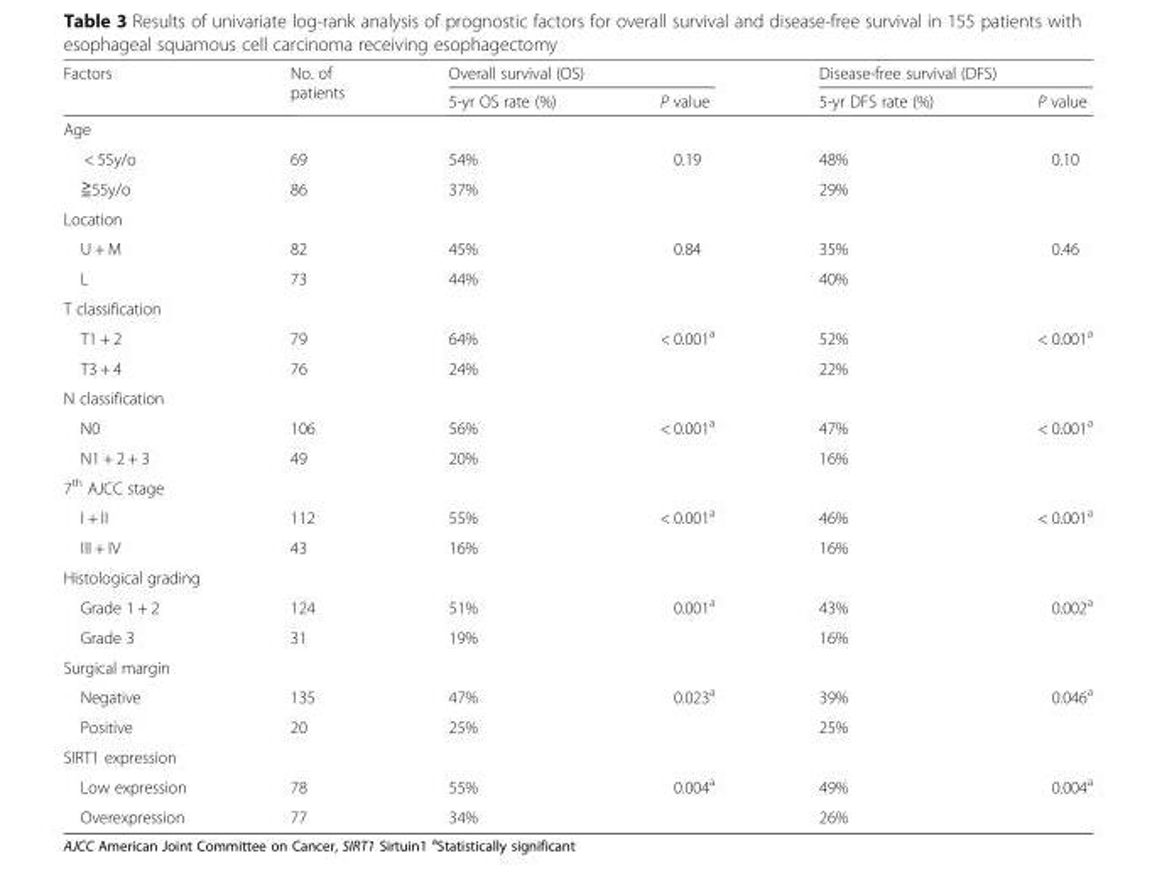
<table><thead><tr><td rowspan="2">Factors</td><td rowspan="2">No. of patients</td><td colspan="2">Overall survival (OS)</td><td colspan="2">Disease-free survival (DFS)</td></tr><tr><td>5-yr OS rate (%)</td><td>P value</td><td>5-yr DFS rate (%)</td><td>P value</td></tr></thead><tbody><tr><td colspan="6">Age</td></tr><tr><td>&lt; 55y/o</td><td>69</td><td>54%</td><td>0.19</td><td>48%</td><td>0.10</td></tr><tr><td>≧55y/o</td><td>86</td><td>37%</td><td></td><td>29%</td><td></td></tr><tr><td colspan="6">Location</td></tr><tr><td>U + M</td><td>82</td><td>45%</td><td>0.84</td><td>35%</td><td>0.46</td></tr><tr><td>L</td><td>73</td><td>44%</td><td></td><td>40%</td><td></td></tr><tr><td colspan="6">T classification</td></tr><tr><td>T1 + 2</td><td>79</td><td>64%</td><td>&lt; 0.001<sup>a</sup></td><td>52%</td><td>&lt; 0.001<sup>a</sup></td></tr><tr><td>T3 + 4</td><td>76</td><td>24%</td><td></td><td>22%</td><td></td></tr><tr><td colspan="6">N classification</td></tr><tr><td>N0</td><td>106</td><td>56%</td><td>&lt; 0.001<sup>a</sup></td><td>47%</td><td>&lt; 0.001<sup>a</sup></td></tr><tr><td>N1 + 2 + 3</td><td>49</td><td>20%</td><td></td><td>16%</td><td></td></tr><tr><td colspan="6">7<sup>th</sup> AJCC stage</td></tr><tr><td>I + II</td><td>112</td><td>55%</td><td>&lt; 0.001<sup>a</sup></td><td>46%</td><td>&lt; 0.001<sup>a</sup></td></tr><tr><td>III + IV</td><td>43</td><td>16%</td><td></td><td>16%</td><td></td></tr><tr><td colspan="6">Histological grading</td></tr><tr><td>Grade 1 + 2</td><td>124</td><td>51%</td><td>0.001<sup>a</sup></td><td>43%</td><td>0.002<sup>a</sup></td></tr><tr><td>Grade 3</td><td>31</td><td>19%</td><td></td><td>16%</td><td></td></tr><tr><td colspan="6">Surgical margin</td></tr><tr><td>Negative</td><td>135</td><td>47%</td><td>0.023<sup>a</sup></td><td>39%</td><td>0.046<sup>a</sup></td></tr><tr><td>Positive</td><td>20</td><td>25%</td><td></td><td>25%</td><td></td></tr><tr><td colspan="6">SIRT1 expression</td></tr><tr><td>Low expression</td><td>78</td><td>55%</td><td>0.004<sup>a</sup></td><td>49%</td><td>0.004<sup>a</sup></td></tr><tr><td>Overexpression</td><td>77</td><td>34%</td><td></td><td>26%</td><td></td></tr></tbody></table>